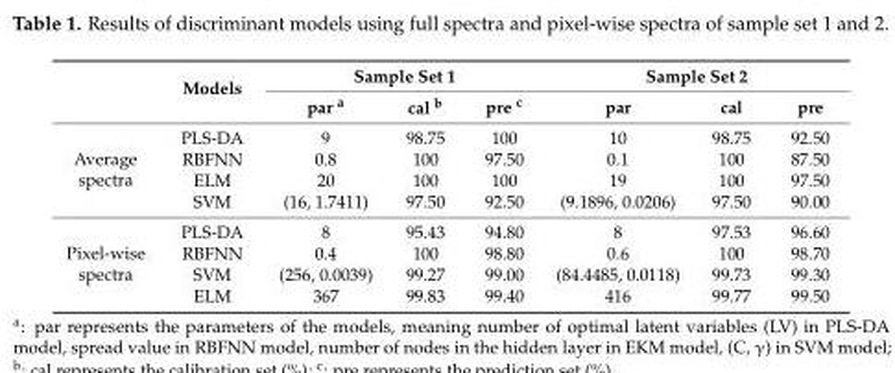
<table><thead><tr><td rowspan="2"></td><td rowspan="2">Models</td><td colspan="3">Sample Set 1</td><td colspan="3">Sample Set 2</td></tr><tr><td>par <sup>a</sup></td><td>cal <sup>b</sup></td><td>pre <sup>c</sup></td><td>par</td><td>cal</td><td>pre</td></tr></thead><tbody><tr><td rowspan="4">Average spectra</td><td>PLS-DA</td><td>9</td><td>98.75</td><td>100</td><td>10</td><td>98.75</td><td>92.50</td></tr><tr><td>RBFNN</td><td>0.8</td><td>100</td><td>97.50</td><td>0.1</td><td>100</td><td>87.50</td></tr><tr><td>ELM</td><td>20</td><td>100</td><td>100</td><td>19</td><td>100</td><td>97.50</td></tr><tr><td>SVM</td><td>(16, 1.7411)</td><td>97.50</td><td>92.50</td><td>(9.1896, 0.0206)</td><td>97.50</td><td>90.00</td></tr><tr><td rowspan="4">Pixel-wise spectra</td><td>PLS-DA</td><td>8</td><td>95.43</td><td>94.80</td><td>8</td><td>97.53</td><td>96.60</td></tr><tr><td>RBFNN</td><td>0.4</td><td>100</td><td>98.80</td><td>0.6</td><td>100</td><td>98.70</td></tr><tr><td>SVM</td><td>(256, 0.0039)</td><td>99.27</td><td>99.00</td><td>(84.4485, 0.0118)</td><td>99.73</td><td>99.30</td></tr><tr><td>ELM</td><td>367</td><td>99.83</td><td>99.40</td><td>416</td><td>99.77</td><td>99.50</td></tr></tbody></table>